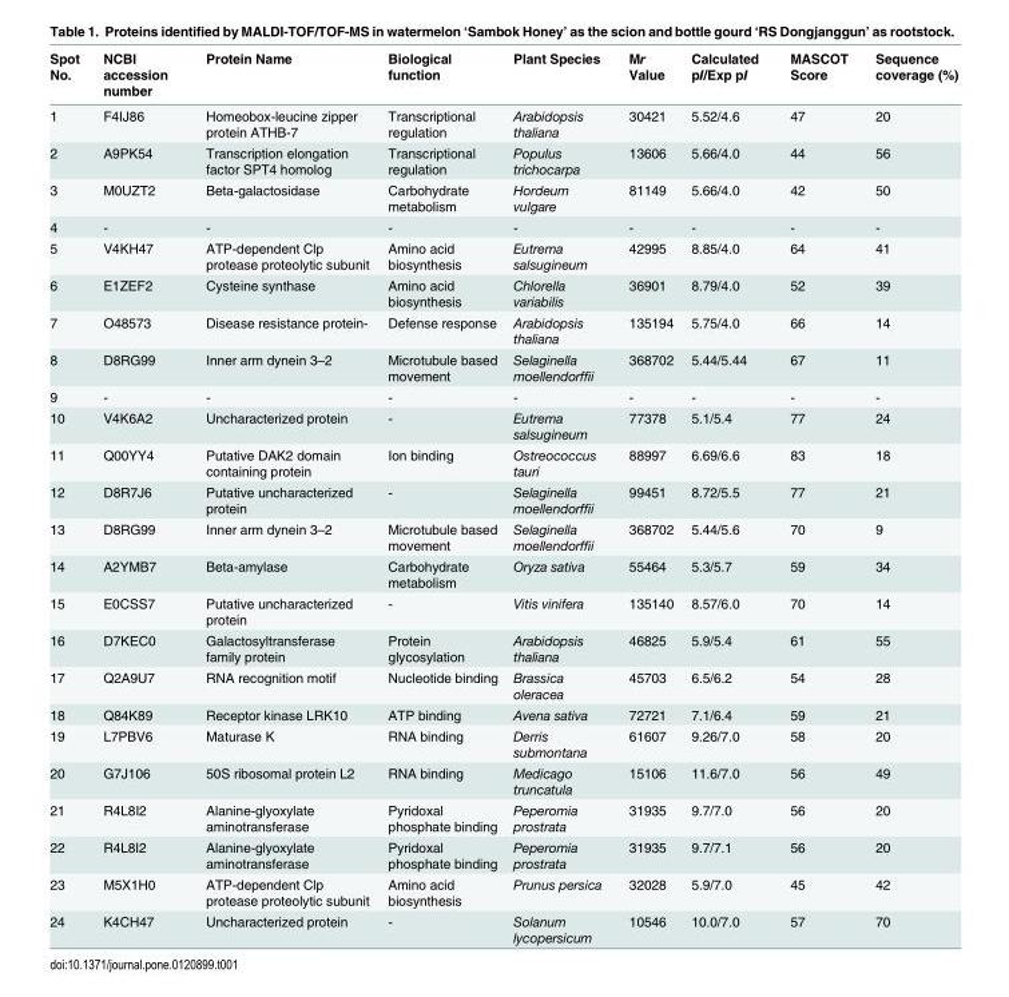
<table><thead><tr><td>Spot No.</td><td>NCBI accession number</td><td>Protein Name</td><td>Biological function</td><td>Plant Species</td><td>Mr Value</td><td>Calculated pI/Exp pI</td><td>MASCOT Score</td><td>Sequence coverage (%)</td></tr></thead><tbody><tr><td>1</td><td>F4IJ86</td><td>Homeobox-leucine zipper protein ATHB-7</td><td>Transcriptional regulation</td><td>Arabidopsis thaliana</td><td>30421</td><td>5.52/4.6</td><td>47</td><td>20</td></tr><tr><td>2</td><td>A9PK54</td><td>Transcription elongation factor SPT4 homolog</td><td>Transcriptional regulation</td><td>Populus trichocarpa</td><td>13606</td><td>5.66/4.0</td><td>44</td><td>56</td></tr><tr><td>3</td><td>M0UZT2</td><td>Beta-galactosidase</td><td>Carbohydrate metabolism</td><td>Hordeum vulgare</td><td>81149</td><td>5.66/4.0</td><td>42</td><td>50</td></tr><tr><td>4</td><td>-</td><td>-</td><td>-</td><td>-</td><td>-</td><td>-</td><td>-</td><td>-</td></tr><tr><td>5</td><td>V4KH47</td><td>ATP-dependent Clp protease proteolytic subunit</td><td>Amino acid biosynthesis</td><td>Eutrema salsugineum</td><td>42995</td><td>8.85/4.0</td><td>64</td><td>41</td></tr><tr><td>6</td><td>E1ZEF2</td><td>Cysteine synthase</td><td>Amino acid biosynthesis</td><td>Chlorella variabilis</td><td>36901</td><td>8.79/4.0</td><td>52</td><td>39</td></tr><tr><td>7</td><td>O48573</td><td>Disease resistance protein-</td><td>Defense response</td><td>Arabidopsis thaliana</td><td>135194</td><td>5.75/4.0</td><td>66</td><td>14</td></tr><tr><td>8</td><td>D8RG99</td><td>Inner arm dynein 3–2</td><td>Microtubule based movement</td><td>Selaginella moellendorffii</td><td>368702</td><td>5.44/5.44</td><td>67</td><td>11</td></tr><tr><td>9</td><td>-</td><td>-</td><td>-</td><td>-</td><td>-</td><td>-</td><td>-</td><td>-</td></tr><tr><td>10</td><td>V4K6A2</td><td>Uncharacterized protein</td><td>-</td><td>Eutrema salsugineum</td><td>77378</td><td>5.1/5.4</td><td>77</td><td>24</td></tr><tr><td>11</td><td>Q00YY4</td><td>Putative DAK2 domain containing protein</td><td>Ion binding</td><td>Ostreococcus tauri</td><td>88997</td><td>6.69/6.6</td><td>83</td><td>18</td></tr><tr><td>12</td><td>D8R7J6</td><td>Putative uncharacterized protein</td><td>-</td><td>Selaginella moellendorffii</td><td>99451</td><td>8.72/5.5</td><td>77</td><td>21</td></tr><tr><td>13</td><td>D8RG99</td><td>Inner arm dynein 3–2</td><td>Microtubule based movement</td><td>Selaginella moellendorffii</td><td>368702</td><td>5.44/5.6</td><td>70</td><td>9</td></tr><tr><td>14</td><td>A2YMB7</td><td>Beta-amylase</td><td>Carbohydrate metabolism</td><td>Oryza sativa</td><td>55464</td><td>5.3/5.7</td><td>59</td><td>34</td></tr><tr><td>15</td><td>E0CSS7</td><td>Putative uncharacterized protein</td><td>-</td><td>Vitis vinifera</td><td>135140</td><td>8.57/6.0</td><td>70</td><td>14</td></tr><tr><td>16</td><td>D7KEC0</td><td>Galactosyltransferase family protein</td><td>Protein glycosylation</td><td>Arabidopsis thaliana</td><td>46825</td><td>5.9/5.4</td><td>61</td><td>55</td></tr><tr><td>17</td><td>Q2A9U7</td><td>RNA recognition motif</td><td>Nucleotide binding</td><td>Brassica oleracea</td><td>45703</td><td>6.5/6.2</td><td>54</td><td>28</td></tr><tr><td>18</td><td>Q84K89</td><td>Receptor kinase LRK10</td><td>ATP binding</td><td>Avena sativa</td><td>72721</td><td>7.1/6.4</td><td>59</td><td>21</td></tr><tr><td>19</td><td>L7PBV6</td><td>Maturase K</td><td>RNA binding</td><td>Derris submontana</td><td>61607</td><td>9.26/7.0</td><td>58</td><td>20</td></tr><tr><td>20</td><td>G7J106</td><td>50S ribosomal protein L2</td><td>RNA binding</td><td>Medicago truncatula</td><td>15106</td><td>11.6/7.0</td><td>56</td><td>49</td></tr><tr><td>21</td><td>R4L8I2</td><td>Alanine-glyoxylate aminotransferase</td><td>Pyridoxal phosphate binding</td><td>Peperomia prostrata</td><td>31935</td><td>9.7/7.0</td><td>56</td><td>20</td></tr><tr><td>22</td><td>R4L8I2</td><td>Alanine-glyoxylate aminotransferase</td><td>Pyridoxal phosphate binding</td><td>Peperomia prostrata</td><td>31935</td><td>9.7/7.1</td><td>56</td><td>20</td></tr><tr><td>23</td><td>M5X1H0</td><td>ATP-dependent Clp protease proteolytic subunit</td><td>Amino acid biosynthesis</td><td>Prunus persica</td><td>32028</td><td>5.9/7.0</td><td>45</td><td>42</td></tr><tr><td>24</td><td>K4CH47</td><td>Uncharacterized protein</td><td>-</td><td>Solanum lycopersicum</td><td>10546</td><td>10.0/7.0</td><td>57</td><td>70</td></tr></tbody></table>